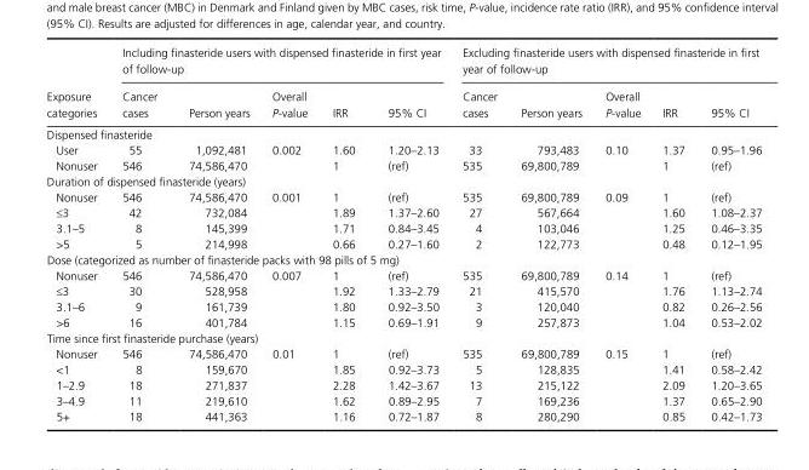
<table><thead><tr><td rowspan="2">Exposure categories</td><td colspan="5">Including finasteride users with dispensed finasteride in first year of follow- up</td><td colspan="5">Excluding finasteride users with dispensed finasteride in first year of follow- up</td></tr><tr><td>Cancer cases</td><td>Person years</td><td>Overall P- value</td><td>IRR</td><td>95% CI</td><td>Cancer cases</td><td>Person years</td><td>Overall P- value</td><td>IRR</td><td>95% CI</td></tr></thead><tbody><tr><td colspan="11">Dispensed finasteride</td></tr><tr><td>User</td><td>55</td><td>1,092,481</td><td>0.002</td><td>1.60</td><td>1.20–2.13</td><td>33</td><td>793,483</td><td>0.10</td><td>1.37</td><td>0.95–1.96</td></tr><tr><td>Nonuser</td><td>546</td><td>74,586,470</td><td></td><td>1</td><td>(ref)</td><td>535</td><td>69,800,789</td><td></td><td>1</td><td>(ref)</td></tr><tr><td colspan="11">Duration of dispensed finasteride (years)</td></tr><tr><td>Nonuser</td><td>546</td><td>74,586,470</td><td>0.001</td><td>1</td><td>(ref)</td><td>535</td><td>69,800,789</td><td>0.09</td><td>1</td><td>(ref)</td></tr><tr><td>≤3</td><td>42</td><td>732,084</td><td></td><td>1.89</td><td>1.37–2.60</td><td>27</td><td>567,664</td><td></td><td>1.60</td><td>1.08–2.37</td></tr><tr><td>3.1–5</td><td>8</td><td>145,399</td><td></td><td>1.71</td><td>0.84–3.45</td><td>4</td><td>103,046</td><td></td><td>1.25</td><td>0.46–3.35</td></tr><tr><td>&gt;5</td><td>5</td><td>214,998</td><td></td><td>0.66</td><td>0.27–1.60</td><td>2</td><td>122,773</td><td></td><td>0.48</td><td>0.12–1.95</td></tr><tr><td colspan="11">Dose (categorized as number of finasteride packs with 98 pills of 5 mg)</td></tr><tr><td>Nonuser</td><td>546</td><td>74,586,470</td><td>0.007</td><td>1</td><td>(ref)</td><td>535</td><td>69,800,789</td><td>0.14</td><td>1</td><td>(ref)</td></tr><tr><td>≤3</td><td>30</td><td>528,958</td><td></td><td>1.92</td><td>1.33–2.79</td><td>21</td><td>415,570</td><td></td><td>1.76</td><td>1.13–2.74</td></tr><tr><td>3.1–6</td><td>9</td><td>161,739</td><td></td><td>1.80</td><td>0.92–3.50</td><td>3</td><td>120,040</td><td></td><td>0.82</td><td>0.26–2.56</td></tr><tr><td>&gt;6</td><td>16</td><td>401,784</td><td></td><td>1.15</td><td>0.69–1.91</td><td>9</td><td>257,873</td><td></td><td>1.04</td><td>0.53–2.02</td></tr><tr><td colspan="11">Time since first finasteride purchase (years)</td></tr><tr><td>Nonuser</td><td>546</td><td>74,586,470</td><td>0.01</td><td>1</td><td>(ref)</td><td>535</td><td>69,800,789</td><td>0.15</td><td>1</td><td>(ref)</td></tr><tr><td>&lt;1</td><td>8</td><td>159,670</td><td></td><td>1.85</td><td>0.92–3.73</td><td>5</td><td>128,835</td><td></td><td>1.41</td><td>0.58–2.42</td></tr><tr><td>1–2.9</td><td>18</td><td>271,837</td><td></td><td>2.28</td><td>1.42–3.67</td><td>13</td><td>215,122</td><td></td><td>2.09</td><td>1.20–3.65</td></tr><tr><td>3–4.9</td><td>11</td><td>219,610</td><td></td><td>1.62</td><td>0.89–2.95</td><td>7</td><td>169,236</td><td></td><td>1.37</td><td>0.65–2.90</td></tr><tr><td>5+</td><td>18</td><td>441,363</td><td></td><td>1.16</td><td>0.72–1.87</td><td>8</td><td>280,290</td><td></td><td>0.85</td><td>0.42–1.73</td></tr></tbody></table>